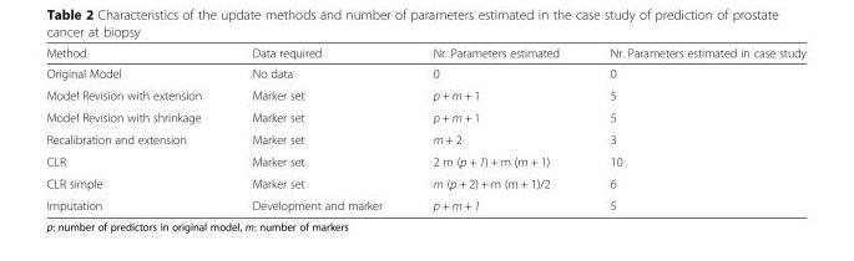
<table><thead><tr><td>Method</td><td>Data required</td><td>Nr. Parameters estimated</td><td>Nr. Parameters estimated in case study</td></tr></thead><tbody><tr><td>Original Model</td><td>No data</td><td>0</td><td>0</td></tr><tr><td>Model Revision with extension</td><td>Marker set</td><td>p + m + 1</td><td>5</td></tr><tr><td>Model Revision with shrinkage</td><td>Marker set</td><td>p + m + 1</td><td>5</td></tr><tr><td>Recalibration and extension</td><td>Marker set</td><td>m + 2</td><td>3</td></tr><tr><td>CLR</td><td>Marker set</td><td>2 m (p + 1) + m (m + 1)</td><td>10</td></tr><tr><td>CLR simple</td><td>Marker set</td><td>m (p + 2) + m (m + 1)/2</td><td>6</td></tr><tr><td>Imputation</td><td>Development and marker</td><td>p + m + 1</td><td>5</td></tr></tbody></table>